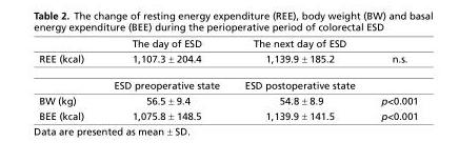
<table><thead><tr><td></td><td>The day of ESD</td><td>The next day of ESD</td><td></td></tr></thead><tbody><tr><td rowspan="2">REE (kcal)</td><td>1,107.3 ± 204.4</td><td>1,139.9 ± 185.2</td><td>n.s.</td></tr><tr><td>ESD preoperative state</td><td>ESD postoperative state</td><td></td></tr><tr><td>BW (kg)</td><td>56.5 ± 9.4</td><td>54.8 ± 8.9</td><td>p&lt;0.001</td></tr><tr><td>BEE (kcal)</td><td>1,075.8 ± 148.5</td><td>1,139.9 ± 141.5</td><td>p&lt;0.001</td></tr></tbody></table>